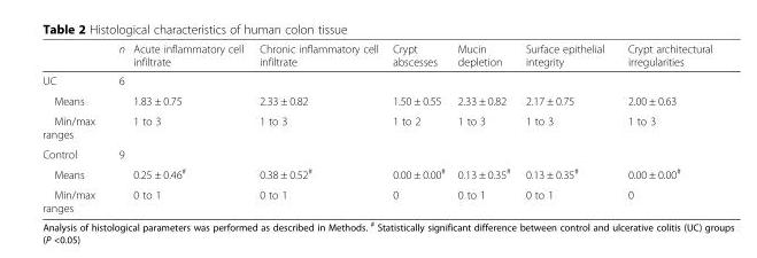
<table><thead><tr><td></td><td>n</td><td>Acute inflammatory cell infiltrate</td><td>Chronic inflammatory cell infiltrate</td><td>Crypt abscesses</td><td>Mucin depletion</td><td>Surface epithelial integrity</td><td>Crypt architectural irregularities</td></tr></thead><tbody><tr><td>UC</td><td>6</td><td></td><td></td><td></td><td></td><td></td><td></td></tr><tr><td>Means</td><td></td><td>1.83 ± 0.75</td><td>2.33 ± 0.82</td><td>1.50 ± 0.55</td><td>2.33 ± 0.82</td><td>2.17 ± 0.75</td><td>2.00 ± 0.63</td></tr><tr><td>Min/max ranges</td><td></td><td>1 to 3</td><td>1 to 3</td><td>1 to 2</td><td>1 to 3</td><td>1 to 3</td><td>1 to 3</td></tr><tr><td>Control</td><td>9</td><td></td><td></td><td></td><td></td><td></td><td></td></tr><tr><td>Means</td><td></td><td>0.25 ± 0.46<sup>#</sup></td><td>0.38 ± 0.52<sup>#</sup></td><td>0.00 ± 0.00<sup>#</sup></td><td>0.13 ± 0.35<sup>#</sup></td><td>0.13 ± 0.35<sup>#</sup></td><td>0.00 ± 0.00<sup>#</sup></td></tr><tr><td>Min/max ranges</td><td></td><td>0 to 1</td><td>0 to 1</td><td>0</td><td>0 to 1</td><td>0 to 1</td><td>0</td></tr></tbody></table>